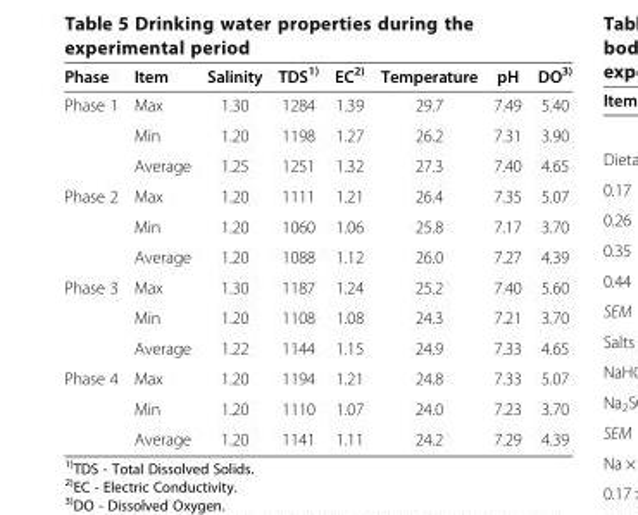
<table><thead><tr><td>Phase</td><td>Item</td><td>Salinity</td><td>TDS<sup>1)</sup></td><td>EC<sup>2)</sup></td><td>Temperature</td><td>pH</td><td>DO<sup>3)</sup></td></tr></thead><tbody><tr><td rowspan="3">Phase 1</td><td>Max</td><td>1.30</td><td>1284</td><td>1.39</td><td>29.7</td><td>7.49</td><td>5.40</td></tr><tr><td>Min</td><td>1.20</td><td>1198</td><td>1.27</td><td>26.2</td><td>7.31</td><td>3.90</td></tr><tr><td>Average</td><td>1.25</td><td>1251</td><td>1.32</td><td>27.3</td><td>7.40</td><td>4.65</td></tr><tr><td rowspan="3">Phase 2</td><td>Max</td><td>1.20</td><td>1111</td><td>1.21</td><td>26.4</td><td>7.35</td><td>5.07</td></tr><tr><td>Min</td><td>1.20</td><td>1060</td><td>1.06</td><td>25.8</td><td>7.17</td><td>3.70</td></tr><tr><td>Average</td><td>1.20</td><td>1088</td><td>1.12</td><td>26.0</td><td>7.27</td><td>4.39</td></tr><tr><td rowspan="3">Phase 3</td><td>Max</td><td>1.30</td><td>1187</td><td>1.24</td><td>25.2</td><td>7.40</td><td>5.60</td></tr><tr><td>Min</td><td>1.20</td><td>1108</td><td>1.08</td><td>24.3</td><td>7.21</td><td>3.70</td></tr><tr><td>Average</td><td>1.22</td><td>1144</td><td>1.15</td><td>24.9</td><td>7.33</td><td>4.65</td></tr><tr><td rowspan="3">Phase 4</td><td>Max</td><td>1.20</td><td>1194</td><td>1.21</td><td>24.8</td><td>7.33</td><td>5.07</td></tr><tr><td>Min</td><td>1.20</td><td>1110</td><td>1.07</td><td>24.0</td><td>7.23</td><td>3.70</td></tr><tr><td>Average</td><td>1.20</td><td>1141</td><td>1.11</td><td>24.2</td><td>7.29</td><td>4.39</td></tr></tbody></table>